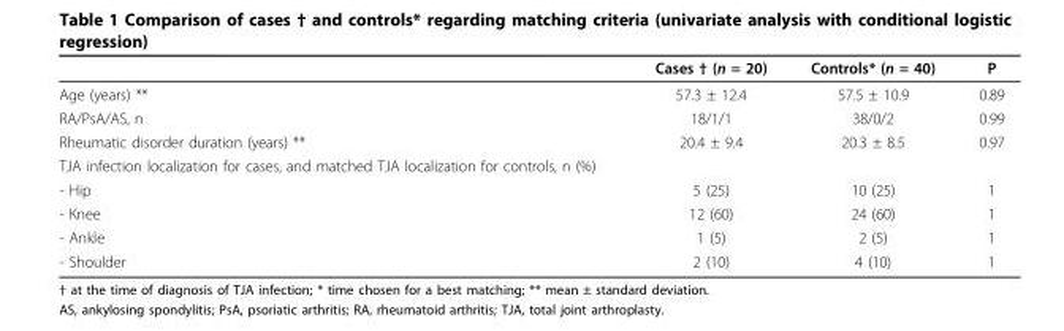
<table><thead><tr><td></td><td>Cases † (n = 20)</td><td>Controls* (n = 40)</td><td>P</td></tr></thead><tbody><tr><td>Age (years) **</td><td>57.3 ± 12.4</td><td>57.5 ± 10.9</td><td>0.89</td></tr><tr><td>RA/PsA/AS, n</td><td>18/1/1</td><td>38/0/2</td><td>0.99</td></tr><tr><td>Rheumatic disorder duration (years) **</td><td>20.4 ± 9.4</td><td>20.3 ± 8.5</td><td>0.97</td></tr><tr><td colspan="4">TJA infection localization for cases, and matched TJA localization for controls, n (%)</td></tr><tr><td>- Hip</td><td>5 (25)</td><td>10 (25)</td><td>1</td></tr><tr><td>- Knee</td><td>12 (60)</td><td>24 (60)</td><td>1</td></tr><tr><td>- Ankle</td><td>1 (5)</td><td>2 (5)</td><td>1</td></tr><tr><td>- Shoulder</td><td>2 (10)</td><td>4 (10)</td><td>1</td></tr></tbody></table>